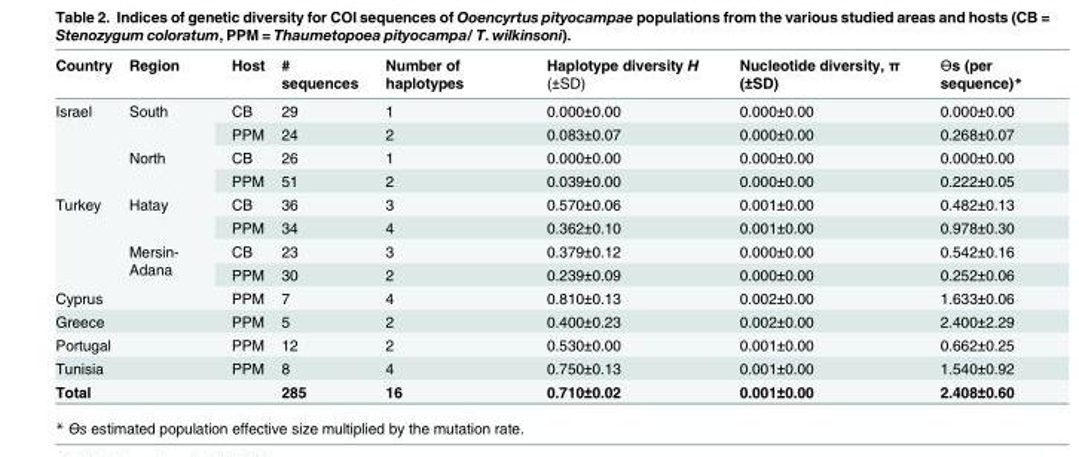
<table><thead><tr><td>Country</td><td>Region</td><td>Host</td><td># sequences</td><td>Number of haplotypes</td><td>Haplotype diversity H (±SD)</td><td>Nucleotide diversity, π (±SD)</td><td>Өs (per sequence)*</td></tr></thead><tbody><tr><td rowspan="4">Israel</td><td rowspan="2">South</td><td>CB</td><td>29</td><td>1</td><td>0.000±0.00</td><td>0.000±0.00</td><td>0.000±0.00</td></tr><tr><td>PPM</td><td>24</td><td>2</td><td>0.083±0.07</td><td>0.000±0.00</td><td>0.268±0.07</td></tr><tr><td rowspan="2">North</td><td>CB</td><td>26</td><td>1</td><td>0.000±0.00</td><td>0.000±0.00</td><td>0.000±0.00</td></tr><tr><td>PPM</td><td>51</td><td>2</td><td>0.039±0.00</td><td>0.000±0.00</td><td>0.222±0.05</td></tr><tr><td rowspan="4">Turkey</td><td rowspan="2">Hatay</td><td>CB</td><td>36</td><td>3</td><td>0.570±0.06</td><td>0.001±0.00</td><td>0.482±0.13</td></tr><tr><td>PPM</td><td>34</td><td>4</td><td>0.362±0.10</td><td>0.001±0.00</td><td>0.978±0.30</td></tr><tr><td rowspan="2">Mersin- Adana</td><td>CB</td><td>23</td><td>3</td><td>0.379±0.12</td><td>0.000±0.00</td><td>0.542±0.16</td></tr><tr><td>PPM</td><td>30</td><td>2</td><td>0.239±0.09</td><td>0.000±0.00</td><td>0.252±0.06</td></tr><tr><td>Cyprus</td><td></td><td>PPM</td><td>7</td><td>4</td><td>0.810±0.13</td><td>0.002±0.00</td><td>1.633±0.06</td></tr><tr><td>Greece</td><td></td><td>PPM</td><td>5</td><td>2</td><td>0.400±0.23</td><td>0.002±0.00</td><td>2.400±2.29</td></tr><tr><td>Portugal</td><td></td><td>PPM</td><td>12</td><td>2</td><td>0.530±0.00</td><td>0.001±0.00</td><td>0.662±0.25</td></tr><tr><td>Tunisia</td><td></td><td>PPM</td><td>8</td><td>4</td><td>0.750±0.13</td><td>0.001±0.00</td><td>1.540±0.92</td></tr><tr><td>Total</td><td></td><td></td><td>285</td><td>16</td><td>0.710±0.02</td><td>0.001±0.00</td><td>2.408±0.60</td></tr></tbody></table>